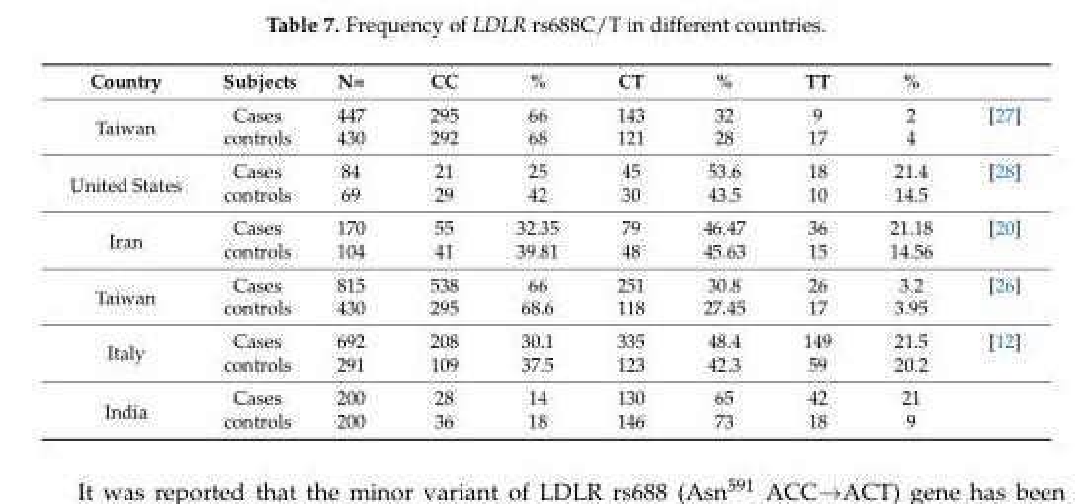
<table><thead><tr><td>Country</td><td>Subjects</td><td>N=</td><td>CC</td><td>%</td><td>CT</td><td>%</td><td>TT</td><td>%</td><td></td></tr></thead><tbody><tr><td rowspan="2">Taiwan</td><td>Cases</td><td>447</td><td>295</td><td>66</td><td>143</td><td>32</td><td>9</td><td>2</td><td>[27]</td></tr><tr><td>controls</td><td>430</td><td>292</td><td>68</td><td>121</td><td>28</td><td>17</td><td>4</td><td></td></tr><tr><td rowspan="2">United States</td><td>Cases</td><td>84</td><td>21</td><td>25</td><td>45</td><td>53.6</td><td>18</td><td>21.4</td><td>[28]</td></tr><tr><td>controls</td><td>69</td><td>29</td><td>42</td><td>30</td><td>43.5</td><td>10</td><td>14.5</td><td></td></tr><tr><td rowspan="2">Iran</td><td>Cases</td><td>170</td><td>55</td><td>32.35</td><td>79</td><td>46.47</td><td>36</td><td>21.18</td><td>[20]</td></tr><tr><td>controls</td><td>104</td><td>41</td><td>39.81</td><td>48</td><td>45.63</td><td>15</td><td>14.56</td><td></td></tr><tr><td rowspan="2">Taiwan</td><td>Cases</td><td>815</td><td>538</td><td>66</td><td>251</td><td>30.8</td><td>26</td><td>3.2</td><td>[26]</td></tr><tr><td>controls</td><td>430</td><td>295</td><td>68.6</td><td>118</td><td>27.45</td><td>17</td><td>3.95</td><td></td></tr><tr><td rowspan="2">Italy</td><td>Cases</td><td>692</td><td>208</td><td>30.1</td><td>335</td><td>48.4</td><td>149</td><td>21.5</td><td>[12]</td></tr><tr><td>controls</td><td>291</td><td>109</td><td>37.5</td><td>123</td><td>42.3</td><td>59</td><td>20.2</td><td></td></tr><tr><td rowspan="2">India</td><td>Cases</td><td>200</td><td>28</td><td>14</td><td>130</td><td>65</td><td>42</td><td>21</td><td></td></tr><tr><td>controls</td><td>200</td><td>36</td><td>18</td><td>146</td><td>73</td><td>18</td><td>9</td><td></td></tr></tbody></table>